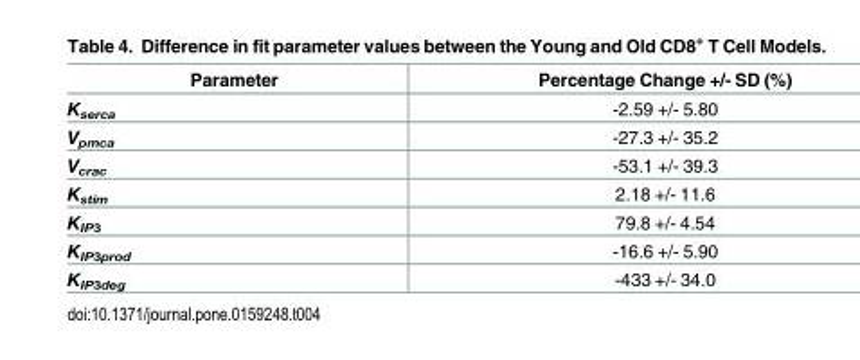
<table><thead><tr><td>Parameter</td><td>Percentage Change +/- SD (%)</td></tr></thead><tbody><tr><td>K<sub>serca</sub></td><td>-2.59 +/- 5.80</td></tr><tr><td>V<sub>pmca</sub></td><td>-27.3 +/- 35.2</td></tr><tr><td>V<sub>crac</sub></td><td>-53.1 +/- 39.3</td></tr><tr><td>K<sub>stim</sub></td><td>2.18 +/- 11.6</td></tr><tr><td>K<sub>IP3</sub></td><td>79.8 +/- 4.54</td></tr><tr><td>K<sub>IP3prod</sub></td><td>-16.6 +/- 5.90</td></tr><tr><td>K<sub>IP3deg</sub></td><td>-433 +/- 34.0</td></tr></tbody></table>